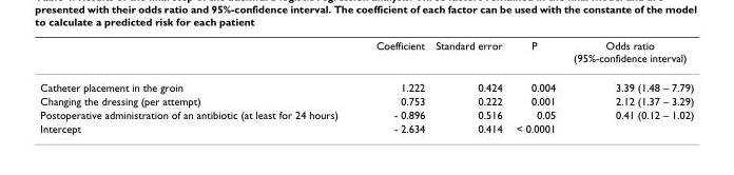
<table><thead><tr><td></td><td>Coefficient</td><td>Standard error</td><td>P</td><td>Odds ratio (95%-confidence interval)</td></tr></thead><tbody><tr><td>Catheter placement in the groin</td><td>1.222</td><td>0.424</td><td>0.004</td><td>3.39 (1.48 – 7.79)</td></tr><tr><td>Changing the dressing (per attempt)</td><td>0.753</td><td>0.222</td><td>0.001</td><td>2.12 (1.37 – 3.29)</td></tr><tr><td>Postoperative administration of an antibiotic (at least for 24 hours)</td><td>- 0.896</td><td>0.516</td><td>0.05</td><td>0.41 (0.12 – 1.02)</td></tr><tr><td>Intercept</td><td>- 2.634</td><td>0.414</td><td>&lt; 0.0001</td><td></td></tr></tbody></table>